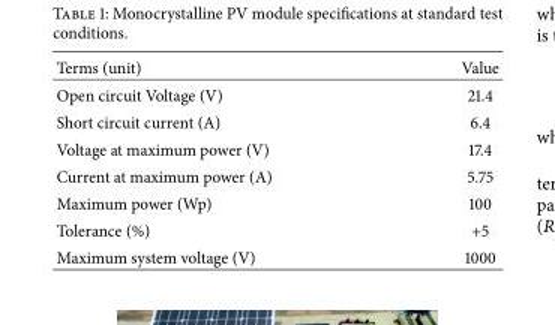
<table><thead><tr><td>Terms (unit)</td><td>Value</td></tr></thead><tbody><tr><td>Open circuit Voltage (V)</td><td>21.4</td></tr><tr><td>Short circuit current (A)</td><td>6.4</td></tr><tr><td>Voltage at maximum power (V)</td><td>17.4</td></tr><tr><td>Current at maximum power (A)</td><td>5.75</td></tr><tr><td>Maximum power (Wp)</td><td>100</td></tr><tr><td>Tolerance (%)</td><td>+5</td></tr><tr><td>Maximum system voltage (V)</td><td>1000</td></tr></tbody></table>